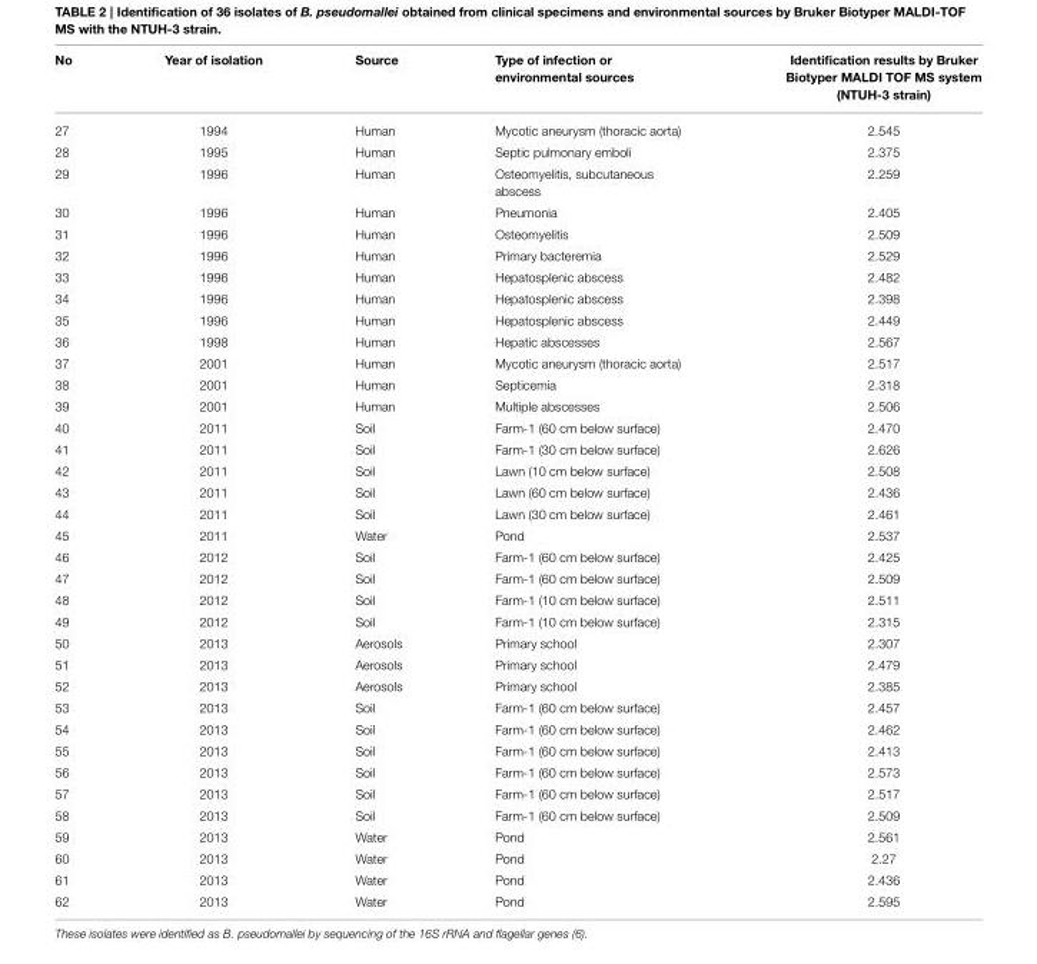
<table><thead><tr><td>No</td><td>Year of isolation</td><td>Source</td><td>Type of infection or environmental sources</td><td>Identification results by Bruker Biotyper MALDI TOF MS system (NTUH-3 strain)</td></tr></thead><tbody><tr><td>27</td><td>1994</td><td>Human</td><td>Mycotic aneurysm (thoracic aorta)</td><td>2.545</td></tr><tr><td>28</td><td>1995</td><td>Human</td><td>Septic pulmonary emboli</td><td>2.375</td></tr><tr><td>29</td><td>1996</td><td>Human</td><td>Osteomyelitis, subcutaneous abscess</td><td>2.259</td></tr><tr><td>30</td><td>1996</td><td>Human</td><td>Pneumonia</td><td>2.405</td></tr><tr><td>31</td><td>1996</td><td>Human</td><td>Osteomyelitis</td><td>2.509</td></tr><tr><td>32</td><td>1996</td><td>Human</td><td>Primary bacteremia</td><td>2.529</td></tr><tr><td>33</td><td>1996</td><td>Human</td><td>Hepatosplenic abscess</td><td>2.482</td></tr><tr><td>34</td><td>1996</td><td>Human</td><td>Hepatosplenic abscess</td><td>2.398</td></tr><tr><td>35</td><td>1996</td><td>Human</td><td>Hepatosplenic abscess</td><td>2.449</td></tr><tr><td>36</td><td>1998</td><td>Human</td><td>Hepatic abscesses</td><td>2.567</td></tr><tr><td>37</td><td>2001</td><td>Human</td><td>Mycotic aneurysm (thoracic aorta)</td><td>2.517</td></tr><tr><td>38</td><td>2001</td><td>Human</td><td>Septicemia</td><td>2.318</td></tr><tr><td>39</td><td>2001</td><td>Human</td><td>Multiple abscesses</td><td>2.506</td></tr><tr><td>40</td><td>2011</td><td>Soil</td><td>Farm-1 (60 cm below surface)</td><td>2.470</td></tr><tr><td>41</td><td>2011</td><td>Soil</td><td>Farm-1 (30 cm below surface)</td><td>2.626</td></tr><tr><td>42</td><td>2011</td><td>Soil</td><td>Lawn (10 cm below surface)</td><td>2.508</td></tr><tr><td>43</td><td>2011</td><td>Soil</td><td>Lawn (60 cm below surface)</td><td>2.436</td></tr><tr><td>44</td><td>2011</td><td>Soil</td><td>Lawn (30 cm below surface)</td><td>2.461</td></tr><tr><td>45</td><td>2011</td><td>Water</td><td>Pond</td><td>2.537</td></tr><tr><td>46</td><td>2012</td><td>Soil</td><td>Farm-1 (60 cm below surface)</td><td>2.425</td></tr><tr><td>47</td><td>2012</td><td>Soil</td><td>Farm-1 (60 cm below surface)</td><td>2.509</td></tr><tr><td>48</td><td>2012</td><td>Soil</td><td>Farm-1 (10 cm below surface)</td><td>2.511</td></tr><tr><td>49</td><td>2012</td><td>Soil</td><td>Farm-1 (10 cm below surface)</td><td>2.315</td></tr><tr><td>50</td><td>2013</td><td>Aerosols</td><td>Primary school</td><td>2.307</td></tr><tr><td>51</td><td>2013</td><td>Aerosols</td><td>Primary school</td><td>2.479</td></tr><tr><td>52</td><td>2013</td><td>Aerosols</td><td>Primary school</td><td>2.385</td></tr><tr><td>53</td><td>2013</td><td>Soil</td><td>Farm-1 (60 cm below surface)</td><td>2.457</td></tr><tr><td>54</td><td>2013</td><td>Soil</td><td>Farm-1 (60 cm below surface)</td><td>2.462</td></tr><tr><td>55</td><td>2013</td><td>Soil</td><td>Farm-1 (60 cm below surface)</td><td>2.413</td></tr><tr><td>56</td><td>2013</td><td>Soil</td><td>Farm-1 (60 cm below surface)</td><td>2.573</td></tr><tr><td>57</td><td>2013</td><td>Soil</td><td>Farm-1 (60 cm below surface)</td><td>2.517</td></tr><tr><td>58</td><td>2013</td><td>Soil</td><td>Farm-1 (60 cm below surface)</td><td>2.509</td></tr><tr><td>59</td><td>2013</td><td>Water</td><td>Pond</td><td>2.561</td></tr><tr><td>60</td><td>2013</td><td>Water</td><td>Pond</td><td>2.27</td></tr><tr><td>61</td><td>2013</td><td>Water</td><td>Pond</td><td>2.436</td></tr><tr><td>62</td><td>2013</td><td>Water</td><td>Pond</td><td>2.595</td></tr></tbody></table>